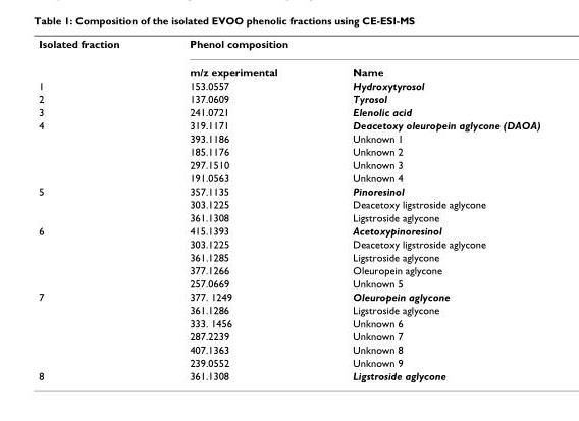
<table><tbody><tr><td rowspan="2">Isolated fraction</td><td colspan="2">Phenol composition</td></tr><tr><td>m/z experimental</td><td>Name</td></tr><tr><td>1</td><td>153.0557</td><td>Hydroxytyrosol</td></tr><tr><td>2</td><td>137.0609</td><td>Tyrosol</td></tr><tr><td>3</td><td>241.0721</td><td>Elenolic acid</td></tr><tr><td rowspan="5">4</td><td>319.1171</td><td>Deacetoxy oleuropein aglycone (DAOA)</td></tr><tr><td>393.1186</td><td>Unknown 1</td></tr><tr><td>185.1176</td><td>Unknown 2</td></tr><tr><td>297.1510</td><td>Unknown 3</td></tr><tr><td>191.0563</td><td>Unknown 4</td></tr><tr><td rowspan="3">5</td><td>357.1135</td><td>Pinoresinol</td></tr><tr><td>303.1225</td><td>Deacetoxy ligstroside aglycone</td></tr><tr><td>361.1308</td><td>Ligstroside aglycone</td></tr><tr><td rowspan="5">6</td><td>415.1393</td><td>Acetoxypinoresinol</td></tr><tr><td>303.1225</td><td>Deacetoxy ligstroside aglycone</td></tr><tr><td>361.1285</td><td>Ligstroside aglycone</td></tr><tr><td>377.1266</td><td>Oleuropein aglycone</td></tr><tr><td>257.0669</td><td>Unknown 5</td></tr><tr><td rowspan="6">7</td><td>377. 1249</td><td>Oleuropein aglycone</td></tr><tr><td>361.1286</td><td>Ligstroside aglycone</td></tr><tr><td>333. 1456</td><td>Unknown 6</td></tr><tr><td>287.2239</td><td>Unknown 7</td></tr><tr><td>407.1363</td><td>Unknown 8</td></tr><tr><td>239.0552</td><td>Unknown 9</td></tr><tr><td>8</td><td>361.1308</td><td>Ligstroside aglycone</td></tr></tbody></table>